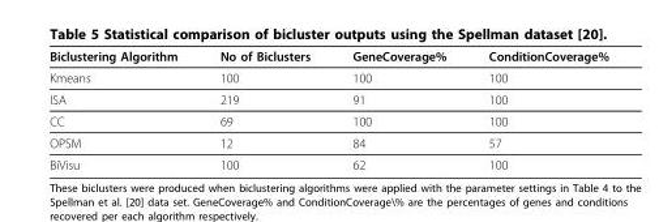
<table><thead><tr><td>Biclustering Algorithm</td><td>No of Biclusters</td><td>GeneCoverage%</td><td>ConditionCoverage%</td></tr></thead><tbody><tr><td>Kmeans</td><td>100</td><td>100</td><td>100</td></tr><tr><td>ISA</td><td>219</td><td>91</td><td>100</td></tr><tr><td>CC</td><td>69</td><td>100</td><td>100</td></tr><tr><td>OPSM</td><td>12</td><td>84</td><td>57</td></tr><tr><td>BiVisu</td><td>100</td><td>62</td><td>100</td></tr></tbody></table>